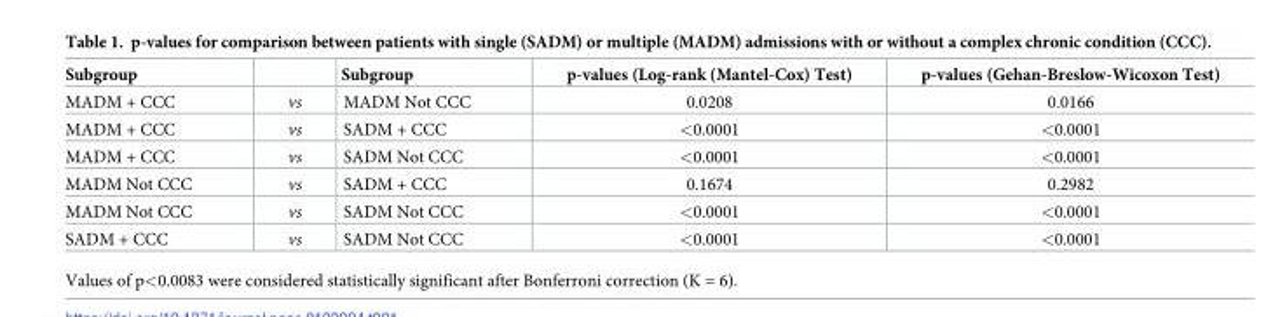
<table><thead><tr><td>Subgroup</td><td></td><td>Subgroup</td><td>p-values (Log-rank (Mantel-Cox) Test)</td><td>p-values (Gehan-Breslow-Wicoxon Test)</td></tr></thead><tbody><tr><td>MADM + CCC</td><td>vs</td><td>MADM Not CCC</td><td>0.0208</td><td>0.0166</td></tr><tr><td>MADM + CCC</td><td>vs</td><td>SADM + CCC</td><td>&lt;0.0001</td><td>&lt;0.0001</td></tr><tr><td>MADM + CCC</td><td>vs</td><td>SADM Not CCC</td><td>&lt;0.0001</td><td>&lt;0.0001</td></tr><tr><td>MADM Not CCC</td><td>vs</td><td>SADM + CCC</td><td>0.1674</td><td>0.2982</td></tr><tr><td>MADM Not CCC</td><td>vs</td><td>SADM Not CCC</td><td>&lt;0.0001</td><td>&lt;0.0001</td></tr><tr><td>SADM + CCC</td><td>vs</td><td>SADM Not CCC</td><td>&lt;0.0001</td><td>&lt;0.0001</td></tr></tbody></table>